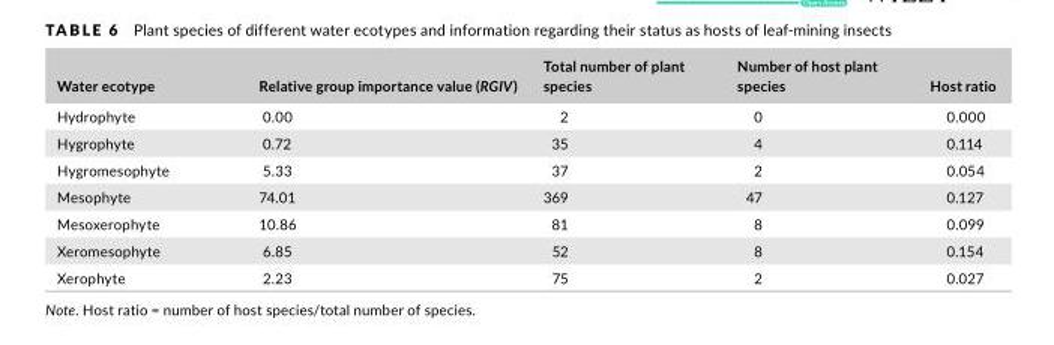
<table><thead><tr><td>Water ecotype</td><td>Relative group importance value (RGIV)</td><td>Total number of plant species</td><td>Number of host plant species</td><td>Host ratio</td></tr></thead><tbody><tr><td>Hydrophyte</td><td>0.00</td><td>2</td><td>0</td><td>0.000</td></tr><tr><td>Hygrophyte</td><td>0.72</td><td>35</td><td>4</td><td>0.114</td></tr><tr><td>Hygromesophyte</td><td>5.33</td><td>37</td><td>2</td><td>0.054</td></tr><tr><td>Mesophyte</td><td>74.01</td><td>369</td><td>47</td><td>0.127</td></tr><tr><td>Mesoxerophyte</td><td>10.86</td><td>81</td><td>8</td><td>0.099</td></tr><tr><td>Xeromesophyte</td><td>6.85</td><td>52</td><td>8</td><td>0.154</td></tr><tr><td>Xerophyte</td><td>2.23</td><td>75</td><td>2</td><td>0.027</td></tr></tbody></table>